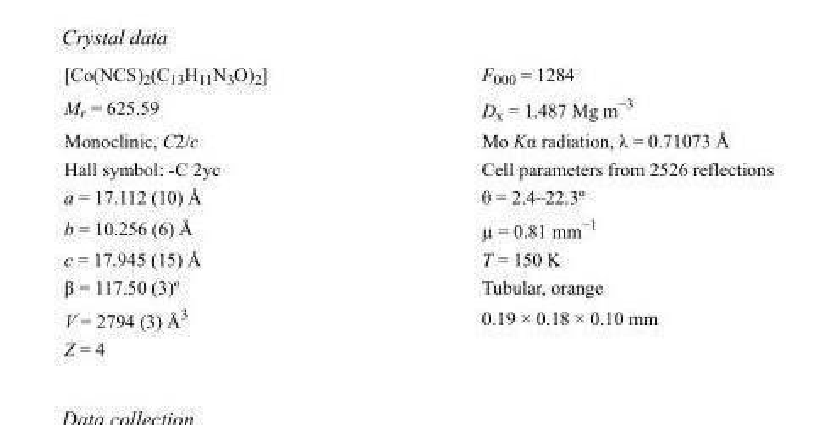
<table><tbody><tr><td>[Co(NCS)<sub>2</sub>(C<sub>13</sub>H<sub>11</sub>N<sub>3</sub>O)<sub>2</sub>]</td><td>F000 = 1284</td></tr><tr><td>M<sub>r</sub> = 625.59</td><td>D<sub>x</sub> = 1.487 Mg m<sup>−3</sup></td></tr><tr><td>Monoclinic, C2/c</td><td>Mo Kα radiation, λ = 0.71073 Å</td></tr><tr><td>Hall symbol: -C 2yc</td><td>Cell parameters from 2526 reflections</td></tr><tr><td>a = 17.112 (10) Å</td><td>θ = 2.4–22.3º</td></tr><tr><td>b = 10.256 (6) Å</td><td>µ = 0.81 mm<sup>−1</sup></td></tr><tr><td>c = 17.945 (15) Å</td><td>T = 150 K</td></tr><tr><td>β = 117.50 (3)º</td><td>Tubular, orange</td></tr><tr><td>V = 2794 (3) Å<sup>3</sup></td><td>0.19 × 0.18 × 0.10 mm</td></tr><tr><td>Z = 4</td><td></td></tr></tbody></table>